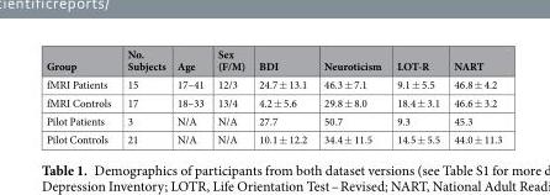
<table><thead><tr><td>Group</td><td>No. Subjects</td><td>Age</td><td>Sex (F/M)</td><td>BDI</td><td>Neuroticism</td><td>LOT-R</td><td>NART</td></tr></thead><tbody><tr><td>fMRI Patients</td><td>15</td><td>17–41</td><td>12/3</td><td>24.7 ± 13.1</td><td>46.3 ± 7.1</td><td>9.1 ± 5.5</td><td>46.8 ± 4.2</td></tr><tr><td>fMRI Controls</td><td>17</td><td>18–33</td><td>13/4</td><td>4.2 ± 5.6</td><td>29.8 ± 8.0</td><td>18.4 ± 3.1</td><td>46.6 ± 3.2</td></tr><tr><td>Pilot Patients</td><td>3</td><td>N/A</td><td>N/A</td><td>27.7</td><td>50.7</td><td>9.3</td><td>45.3</td></tr><tr><td>Pilot Controls</td><td>21</td><td>N/A</td><td>N/A</td><td>10.1 ± 12.2</td><td>34.4 ± 11.5</td><td>14.5 ± 5.5</td><td>44.0 ± 11.3</td></tr></tbody></table>